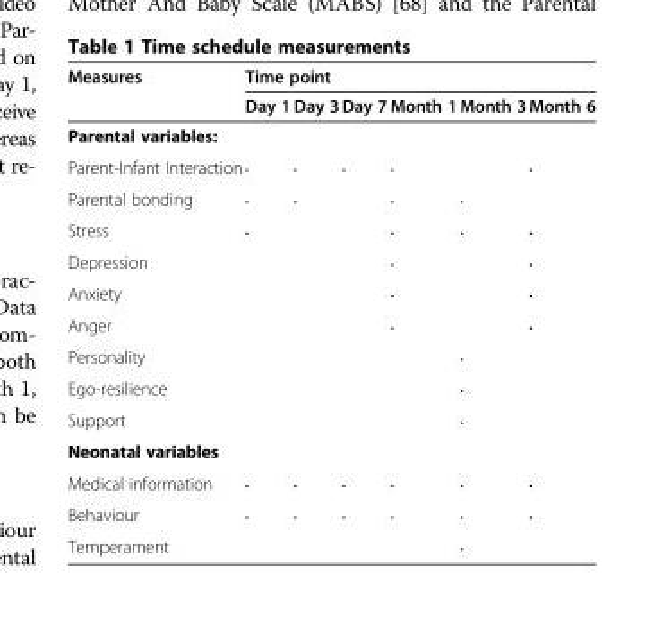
<table><thead><tr><td rowspan="2">Measures</td><td colspan="6">Time point</td></tr><tr><td>Day 1</td><td>Day 3</td><td>Day 7</td><td>Month 1</td><td>Month 3</td><td>Month 6</td></tr></thead><tbody><tr><td colspan="7">Parental variables:</td></tr><tr><td>Parent-Infant Interaction</td><td>•</td><td>•</td><td>•</td><td>•</td><td></td><td>•</td></tr><tr><td>Parental bonding</td><td>•</td><td>•</td><td></td><td>•</td><td>•</td><td></td></tr><tr><td>Stress</td><td>•</td><td></td><td></td><td>•</td><td>•</td><td>•</td></tr><tr><td>Depression</td><td></td><td></td><td></td><td>•</td><td></td><td>•</td></tr><tr><td>Anxiety</td><td></td><td></td><td></td><td>•</td><td></td><td>•</td></tr><tr><td>Anger</td><td></td><td></td><td></td><td>•</td><td></td><td>•</td></tr><tr><td>Personality</td><td></td><td></td><td></td><td></td><td>•</td><td></td></tr><tr><td>Ego-resilience</td><td></td><td></td><td></td><td></td><td>•</td><td></td></tr><tr><td>Support</td><td></td><td></td><td></td><td></td><td>•</td><td></td></tr><tr><td colspan="7">Neonatal variables</td></tr><tr><td>Medical information</td><td>•</td><td>•</td><td>•</td><td>•</td><td>•</td><td>•</td></tr><tr><td>Behaviour</td><td>•</td><td>•</td><td>•</td><td>•</td><td>•</td><td>•</td></tr><tr><td>Temperament</td><td></td><td></td><td></td><td></td><td>•</td><td></td></tr></tbody></table>